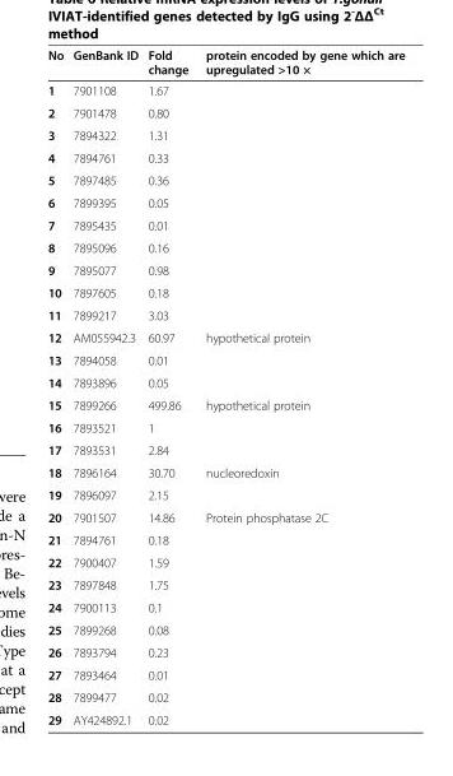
<table><thead><tr><td>No</td><td>GenBank ID</td><td>Fold change</td><td>protein encoded by gene which are upregulated &gt;10 ×</td></tr></thead><tbody><tr><td>1</td><td>7901108</td><td>1.67</td><td></td></tr><tr><td>2</td><td>7901478</td><td>0.80</td><td></td></tr><tr><td>3</td><td>7894322</td><td>1.31</td><td></td></tr><tr><td>4</td><td>7894761</td><td>0.33</td><td></td></tr><tr><td>5</td><td>7897485</td><td>0.36</td><td></td></tr><tr><td>6</td><td>7899395</td><td>0.05</td><td></td></tr><tr><td>7</td><td>7895435</td><td>0.01</td><td></td></tr><tr><td>8</td><td>7895096</td><td>0.16</td><td></td></tr><tr><td>9</td><td>7895077</td><td>0.98</td><td></td></tr><tr><td>10</td><td>7897605</td><td>0.18</td><td></td></tr><tr><td>11</td><td>7899217</td><td>3.03</td><td></td></tr><tr><td>12</td><td>AM055942.3</td><td>60.97</td><td>hypothetical protein</td></tr><tr><td>13</td><td>7894058</td><td>0.01</td><td></td></tr><tr><td>14</td><td>7893896</td><td>0.05</td><td></td></tr><tr><td>15</td><td>7899266</td><td>499.86</td><td>hypothetical protein</td></tr><tr><td>16</td><td>7893521</td><td>1</td><td></td></tr><tr><td>17</td><td>7893531</td><td>2.84</td><td></td></tr><tr><td>18</td><td>7896164</td><td>30.70</td><td>nucleoredoxin</td></tr><tr><td>19</td><td>7896097</td><td>2.15</td><td></td></tr><tr><td>20</td><td>7901507</td><td>14.86</td><td>Protein phosphatase 2C</td></tr><tr><td>21</td><td>7894761</td><td>0.18</td><td></td></tr><tr><td>22</td><td>7900407</td><td>1.59</td><td></td></tr><tr><td>23</td><td>7897848</td><td>1.75</td><td></td></tr><tr><td>24</td><td>7900113</td><td>0.1</td><td></td></tr><tr><td>25</td><td>7899268</td><td>0.08</td><td></td></tr><tr><td>26</td><td>7893794</td><td>0.23</td><td></td></tr><tr><td>27</td><td>7893464</td><td>0.01</td><td></td></tr><tr><td>28</td><td>7899477</td><td>0.02</td><td></td></tr><tr><td>29</td><td>AY424892.1</td><td>0.02</td><td></td></tr></tbody></table>